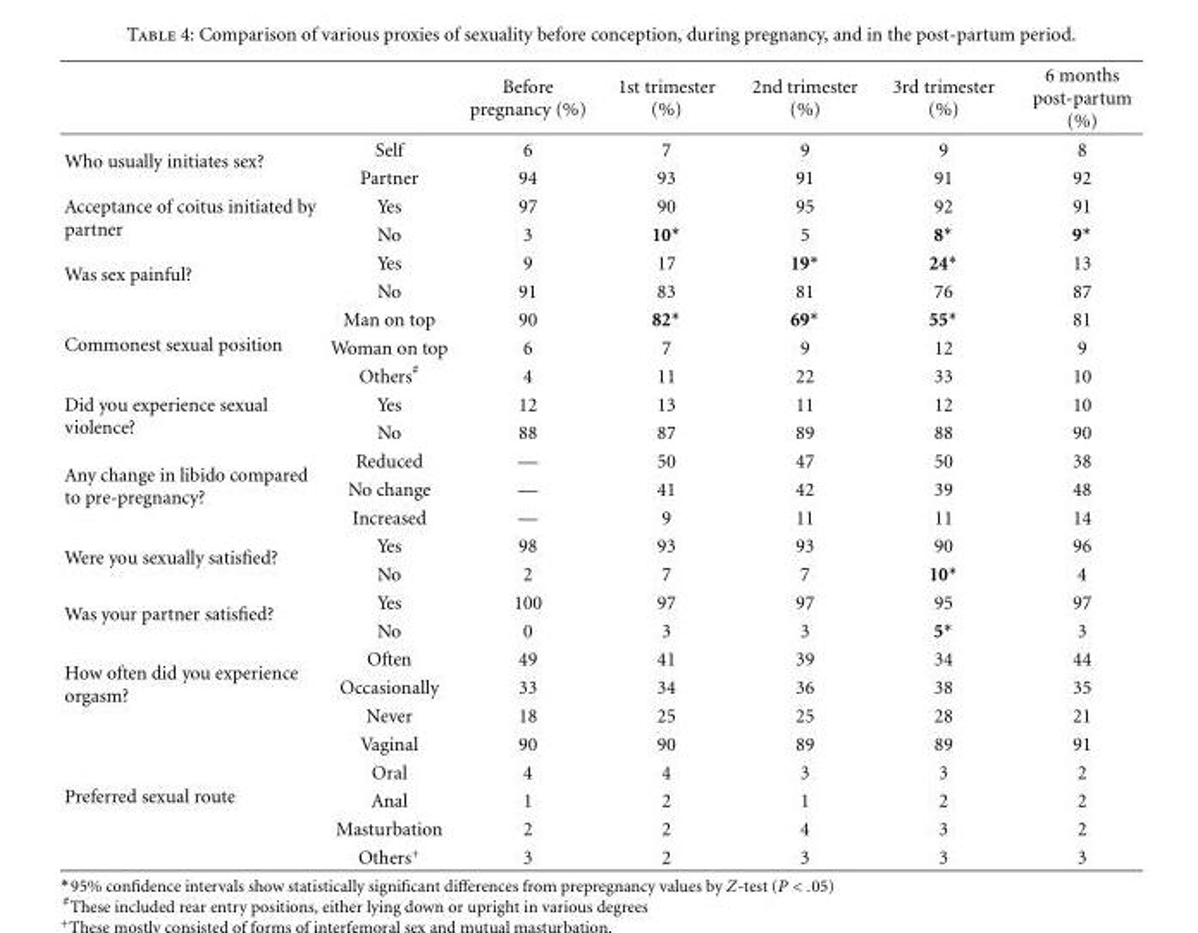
<table><thead><tr><td></td><td></td><td>Before pregnancy (%)</td><td>1st trimester (%)</td><td>2nd trimester (%)</td><td>3rd trimester (%)</td><td>6 months post-partum (%)</td></tr></thead><tbody><tr><td rowspan="2">Who usually initiates sex?</td><td>Self</td><td>6</td><td>7</td><td>9</td><td>9</td><td>8</td></tr><tr><td>Partner</td><td>94</td><td>93</td><td>91</td><td>91</td><td>92</td></tr><tr><td rowspan="2">Acceptance of coitus initiated by partner</td><td>Yes</td><td>97</td><td>90</td><td>95</td><td>92</td><td>91</td></tr><tr><td>No</td><td>3</td><td>10∗</td><td>5</td><td>8∗</td><td>9∗</td></tr><tr><td rowspan="2">Was sex painful?</td><td>Yes</td><td>9</td><td>17</td><td>19∗</td><td>24∗</td><td>13</td></tr><tr><td>No</td><td>91</td><td>83</td><td>81</td><td>76</td><td>87</td></tr><tr><td rowspan="3">Commonest sexual position</td><td>Man on top</td><td>90</td><td>82∗</td><td>69∗</td><td>55∗</td><td>81</td></tr><tr><td>Woman on top</td><td>6</td><td>7</td><td>9</td><td>12</td><td>9</td></tr><tr><td>Others<sup>#</sup></td><td>4</td><td>11</td><td>22</td><td>33</td><td>10</td></tr><tr><td rowspan="2">Did you experience sexual violence?</td><td>Yes</td><td>12</td><td>13</td><td>11</td><td>12</td><td>10</td></tr><tr><td>No</td><td>88</td><td>87</td><td>89</td><td>88</td><td>90</td></tr><tr><td rowspan="3">Any change in libido compared to pre-pregnancy?</td><td>Reduced</td><td>—</td><td>50</td><td>47</td><td>50</td><td>38</td></tr><tr><td>No change</td><td>—</td><td>41</td><td>42</td><td>39</td><td>48</td></tr><tr><td>Increased</td><td>—</td><td>9</td><td>11</td><td>11</td><td>14</td></tr><tr><td rowspan="2">Were you sexually satisfied?</td><td>Yes</td><td>98</td><td>93</td><td>93</td><td>90</td><td>96</td></tr><tr><td>No</td><td>2</td><td>7</td><td>7</td><td>10∗</td><td>4</td></tr><tr><td rowspan="2">Was your partner satisfied?</td><td>Yes</td><td>100</td><td>97</td><td>97</td><td>95</td><td>97</td></tr><tr><td>No</td><td>0</td><td>3</td><td>3</td><td>5∗</td><td>3</td></tr><tr><td rowspan="3">How often did you experience orgasm?</td><td>Often</td><td>49</td><td>41</td><td>39</td><td>34</td><td>44</td></tr><tr><td>Occasionally</td><td>33</td><td>34</td><td>36</td><td>38</td><td>35</td></tr><tr><td>Never</td><td>18</td><td>25</td><td>25</td><td>28</td><td>21</td></tr><tr><td rowspan="5">Preferred sexual route</td><td>Vaginal</td><td>90</td><td>90</td><td>89</td><td>89</td><td>91</td></tr><tr><td>Oral</td><td>4</td><td>4</td><td>3</td><td>3</td><td>2</td></tr><tr><td>Anal</td><td>1</td><td>2</td><td>1</td><td>2</td><td>2</td></tr><tr><td>Masturbation</td><td>2</td><td>2</td><td>4</td><td>3</td><td>2</td></tr><tr><td>Others<sup>+</sup></td><td>3</td><td>2</td><td>3</td><td>3</td><td>3</td></tr></tbody></table>